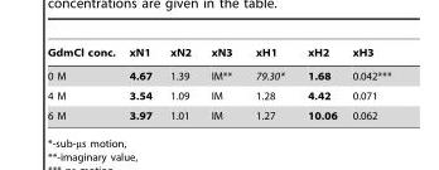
<table><thead><tr><td>GdmCl conc.</td><td>xN1</td><td>xN2</td><td>xN3</td><td>xH1</td><td>xH2</td><td>xH3</td></tr></thead><tbody><tr><td>0 M</td><td>4.67</td><td>1.39</td><td>IM**</td><td>79.30*</td><td>1.68</td><td>0.042***</td></tr><tr><td>4 M</td><td>3.54</td><td>1.09</td><td>IM</td><td>1.28</td><td>4.42</td><td>0.071</td></tr><tr><td>6 M</td><td>3.97</td><td>1.01</td><td>IM</td><td>1.27</td><td>10.06</td><td>0.062</td></tr></tbody></table>